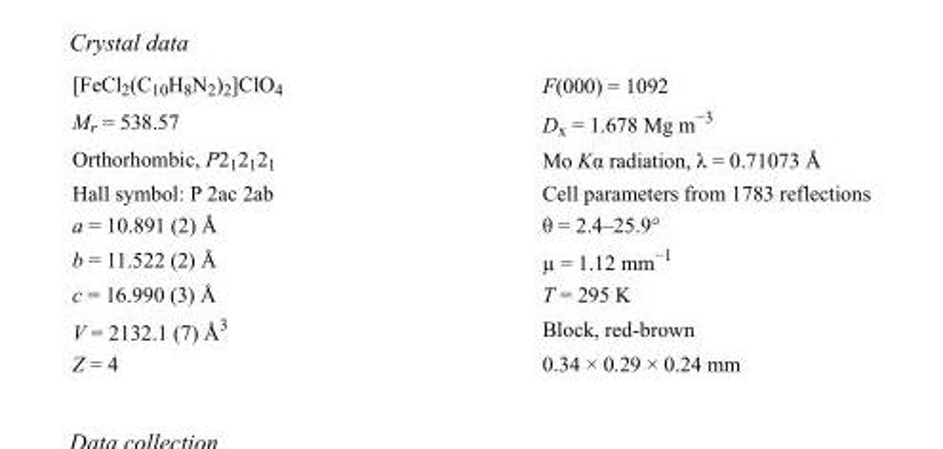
<table><tbody><tr><td>[FeCl<sub>2</sub>(C<sub>10</sub>H<sub>8</sub>N<sub>2</sub>)<sub>2</sub>]ClO<sub>4</sub></td><td>F(000) = 1092</td></tr><tr><td>M<sub>r</sub> = 538.57</td><td>D<sub>x</sub> = 1.678 Mg m<sup>−3</sup></td></tr><tr><td>Orthorhombic, P2<sub>1</sub>2<sub>1</sub>2<sub>1</sub></td><td>Mo Kα radiation, λ = 0.71073 Å</td></tr><tr><td>Hall symbol: P 2ac 2ab</td><td>Cell parameters from 1783 reflections</td></tr><tr><td>a = 10.891 (2) Å</td><td>θ = 2.4–25.9°</td></tr><tr><td>b = 11.522 (2) Å</td><td>µ = 1.12 mm<sup>−1</sup></td></tr><tr><td>c = 16.990 (3) Å</td><td>T = 295 K</td></tr><tr><td>V = 2132.1 (7) Å<sup>3</sup></td><td>Block, red-brown</td></tr><tr><td>Z = 4</td><td>0.34 × 0.29 × 0.24 mm</td></tr></tbody></table>